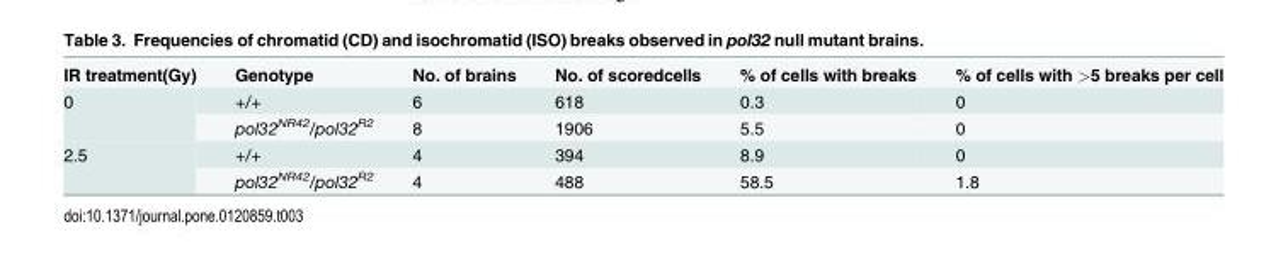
<table><tbody><tr><td>IR treatment(Gy)</td><td>Genotype</td><td>No. of brains</td><td>No. of scoredcells</td><td>% of cells with breaks</td><td>% of cells with &gt;5 breaks per cell</td></tr><tr><td rowspan="2">0</td><td>+/+</td><td>6</td><td>618</td><td>0.3</td><td>0</td></tr><tr><td>pol32<sup>NR42</sup>/pol32<sup>R2</sup></td><td>8</td><td>1906</td><td>5.5</td><td>0</td></tr><tr><td rowspan="2">2.5</td><td>+/+</td><td>4</td><td>394</td><td>8.9</td><td>0</td></tr><tr><td>pol32<sup>NR42</sup>/pol32<sup>R2</sup></td><td>4</td><td>488</td><td>58.5</td><td>1.8</td></tr></tbody></table>